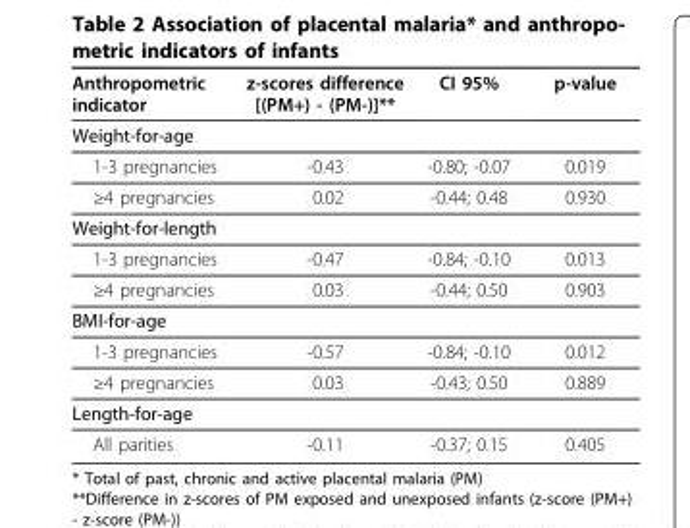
<table><thead><tr><td>Anthropometric indicator</td><td>z-scores difference [(PM+) - (PM-)]**</td><td>CI 95%</td><td>p-value</td></tr></thead><tbody><tr><td colspan="4">Weight-for-age</td></tr><tr><td>1-3 pregnancies</td><td>-0.43</td><td>-0.80; -0.07</td><td>0.019</td></tr><tr><td>≥4 pregnancies</td><td>0.02</td><td>-0.44; 0.48</td><td>0.930</td></tr><tr><td colspan="4">Weight-for-length</td></tr><tr><td>1-3 pregnancies</td><td>-0.47</td><td>-0.84; -0.10</td><td>0.013</td></tr><tr><td>≥4 pregnancies</td><td>0.03</td><td>-0.44; 0.50</td><td>0.903</td></tr><tr><td colspan="4">BMI-for-age</td></tr><tr><td>1-3 pregnancies</td><td>-0.57</td><td>-0.84; -0.10</td><td>0.012</td></tr><tr><td>≥4 pregnancies</td><td>0.03</td><td>-0.43; 0.50</td><td>0.889</td></tr><tr><td colspan="4">Length-for-age</td></tr><tr><td>All parities</td><td>-0.11</td><td>-0.37; 0.15</td><td>0.405</td></tr></tbody></table>